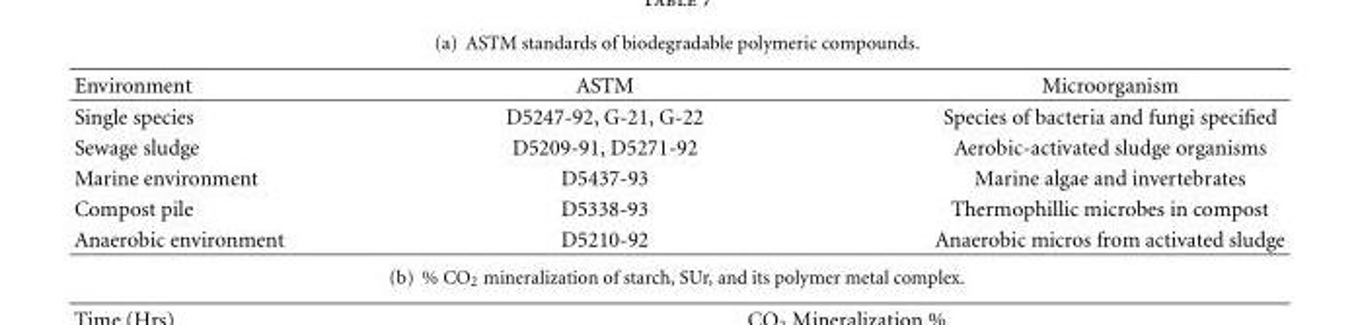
<table><thead><tr><td>Environment</td><td>ASTM</td><td>Microorganism</td></tr></thead><tbody><tr><td>Single species</td><td>D5247-92, G-21, G-22</td><td>Species of bacteria and fungi specified</td></tr><tr><td>Sewage sludge</td><td>D5209-91, D5271-92</td><td>Aerobic-activated sludge organisms</td></tr><tr><td>Marine environment</td><td>D5437-93</td><td>Marine algae and invertebrates</td></tr><tr><td>Compost pile</td><td>D5338-93</td><td>Thermophillic microbes in compost</td></tr><tr><td>Anaerobic environment</td><td>D5210-92</td><td>Anaerobic micros from activated sludge</td></tr></tbody></table>